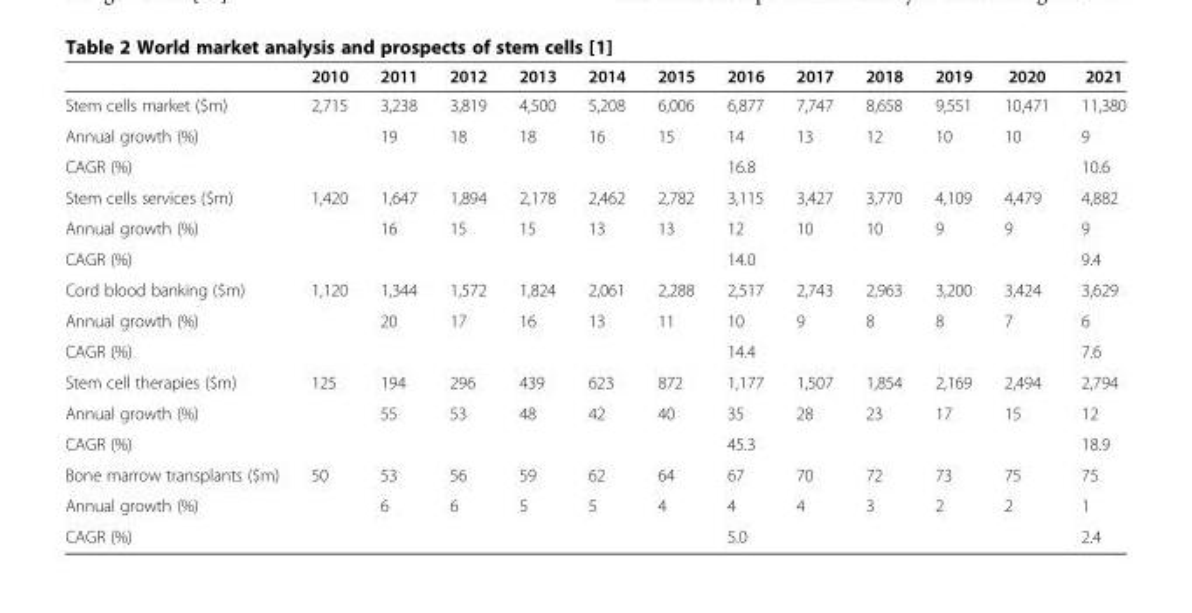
<table><thead><tr><td></td><td>2010</td><td>2011</td><td>2012</td><td>2013</td><td>2014</td><td>2015</td><td>2016</td><td>2017</td><td>2018</td><td>2019</td><td>2020</td><td>2021</td></tr></thead><tbody><tr><td>Stem cells market ($m)</td><td>2,715</td><td>3,238</td><td>3,819</td><td>4,500</td><td>5,208</td><td>6,006</td><td>6,877</td><td>7,747</td><td>8,658</td><td>9,551</td><td>10,471</td><td>11,380</td></tr><tr><td>Annual growth (%)</td><td></td><td>19</td><td>18</td><td>18</td><td>16</td><td>15</td><td>14</td><td>13</td><td>12</td><td>10</td><td>10</td><td>9</td></tr><tr><td>CAGR (%)</td><td></td><td></td><td></td><td></td><td></td><td></td><td>16.8</td><td></td><td></td><td></td><td></td><td>10.6</td></tr><tr><td>Stem cells services ($m)</td><td>1,420</td><td>1,647</td><td>1,894</td><td>2,178</td><td>2,462</td><td>2,782</td><td>3,115</td><td>3,427</td><td>3,770</td><td>4,109</td><td>4,479</td><td>4,882</td></tr><tr><td>Annual growth (%)</td><td></td><td>16</td><td>15</td><td>15</td><td>13</td><td>13</td><td>12</td><td>10</td><td>10</td><td>9</td><td>9</td><td>9</td></tr><tr><td>CAGR (%)</td><td></td><td></td><td></td><td></td><td></td><td></td><td>14.0</td><td></td><td></td><td></td><td></td><td>9.4</td></tr><tr><td>Cord blood banking ($m)</td><td>1,120</td><td>1,344</td><td>1,572</td><td>1,824</td><td>2,061</td><td>2,288</td><td>2,517</td><td>2,743</td><td>2,963</td><td>3,200</td><td>3,424</td><td>3,629</td></tr><tr><td>Annual growth (%)</td><td></td><td>20</td><td>17</td><td>16</td><td>13</td><td>11</td><td>10</td><td>9</td><td>8</td><td>8</td><td>7</td><td>6</td></tr><tr><td>CAGR (%)</td><td></td><td></td><td></td><td></td><td></td><td></td><td>14.4</td><td></td><td></td><td></td><td></td><td>7.6</td></tr><tr><td>Stem cell therapies ($m)</td><td>125</td><td>194</td><td>296</td><td>439</td><td>623</td><td>872</td><td>1,177</td><td>1,507</td><td>1,854</td><td>2,169</td><td>2,494</td><td>2,794</td></tr><tr><td>Annual growth (%)</td><td></td><td>55</td><td>53</td><td>48</td><td>42</td><td>40</td><td>35</td><td>28</td><td>23</td><td>17</td><td>15</td><td>12</td></tr><tr><td>CAGR (%)</td><td></td><td></td><td></td><td></td><td></td><td></td><td>45.3</td><td></td><td></td><td></td><td></td><td>18.9</td></tr><tr><td>Bone marrow transplants ($m)</td><td>50</td><td>53</td><td>56</td><td>59</td><td>62</td><td>64</td><td>67</td><td>70</td><td>72</td><td>73</td><td>75</td><td>75</td></tr><tr><td>Annual growth (%)</td><td></td><td>6</td><td>6</td><td>5</td><td>5</td><td>4</td><td>4</td><td>4</td><td>3</td><td>2</td><td>2</td><td>1</td></tr><tr><td>CAGR (%)</td><td></td><td></td><td></td><td></td><td></td><td></td><td>5.0</td><td></td><td></td><td></td><td></td><td>2.4</td></tr></tbody></table>